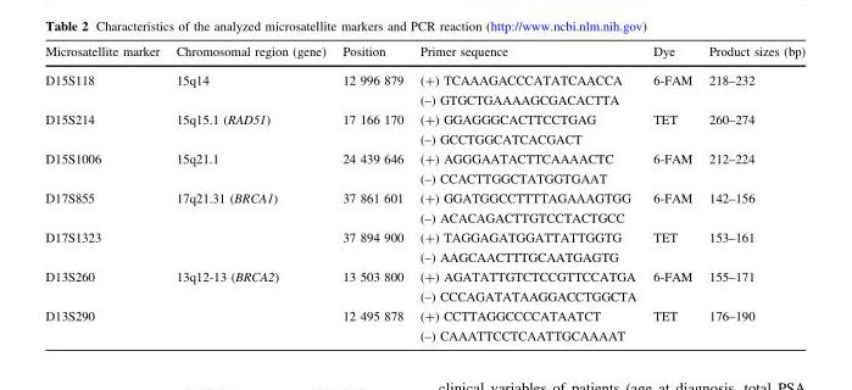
<table><thead><tr><td>Microsatellite marker</td><td>Chromosomal region (gene)</td><td>Position</td><td>Primer sequence</td><td>Dye</td><td>Product sizes (bp)</td></tr></thead><tbody><tr><td rowspan="2">D15S118</td><td rowspan="2">15q14</td><td rowspan="2">12 996 879</td><td>(+) TCAAAGACCCATATCAACCA</td><td rowspan="2">6-FAM</td><td rowspan="2">218–232</td></tr><tr><td>(–) GTGCTGAAAAGCGACACTTA</td></tr><tr><td rowspan="2">D15S214</td><td rowspan="2">15q15.1 (RAD51)</td><td rowspan="2">17 166 170</td><td>(+) GGAGGGCACTTCCTGAG</td><td rowspan="2">TET</td><td rowspan="2">260–274</td></tr><tr><td>(–) GCCTGGCATCACGACT</td></tr><tr><td rowspan="2">D15S1006</td><td rowspan="2">15q21.1</td><td rowspan="2">24 439 646</td><td>(+) AGGGAATACTTCAAAACTC</td><td rowspan="2">6-FAM</td><td rowspan="2">212–224</td></tr><tr><td>(–) CCACTTGGCTATGGTGAAT</td></tr><tr><td rowspan="2">D17S855</td><td rowspan="4">17q21.31 (BRCA1)</td><td rowspan="2">37 861 601</td><td>(+) GGATGGCCTTTTAGAAAGTGG</td><td rowspan="2">6-FAM</td><td rowspan="2">142–156</td></tr><tr><td>(–) ACACAGACTTGTCCTACTGCC</td></tr><tr><td rowspan="2">D17S1323</td><td rowspan="2">37 894 900</td><td>(+) TAGGAGATGGATTATTGGTG</td><td rowspan="2">TET</td><td rowspan="2">153–161</td></tr><tr><td>(–) AAGCAACTTTGCAATGAGTG</td></tr><tr><td rowspan="2">D13S260</td><td rowspan="4">13q12-13 (BRCA2)</td><td rowspan="2">13 503 800</td><td>(+) AGATATTGTCTCCGTTCCATGA</td><td rowspan="2">6-FAM</td><td rowspan="2">155–171</td></tr><tr><td>(–) CCCAGATATAAGGACCTGGCTA</td></tr><tr><td rowspan="2">D13S290</td><td rowspan="2">12 495 878</td><td>(+) CCTTAGGCCCCATAATCT</td><td rowspan="2">TET</td><td rowspan="2">176–190</td></tr><tr><td>(–) CAAATTCCTCAATTGCAAAAT</td></tr></tbody></table>